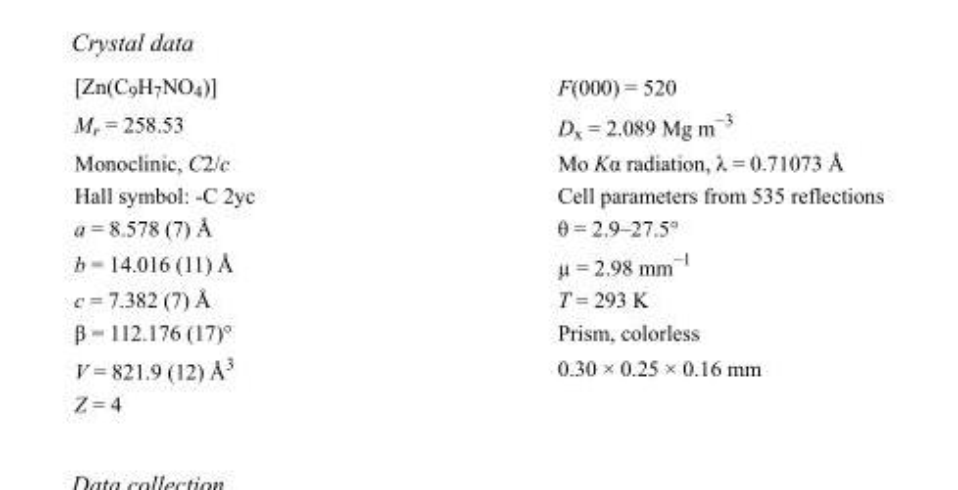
<table><tbody><tr><td>[Zn(C<sub>9</sub>H<sub>7</sub>NO<sub>4</sub>)]</td><td>F(000) = 520</td></tr><tr><td>M<sub>r</sub> = 258.53</td><td>D<sub>x</sub> = 2.089 Mg m<sup>−3</sup></td></tr><tr><td>Monoclinic, C2/c</td><td>Mo Kα radiation, λ = 0.71073 Å</td></tr><tr><td>Hall symbol: -C 2yc</td><td>Cell parameters from 535 reflections</td></tr><tr><td>a = 8.578 (7) Å</td><td>θ = 2.9–27.5°</td></tr><tr><td>b = 14.016 (11) Å</td><td>µ = 2.98 mm<sup>−1</sup></td></tr><tr><td>c = 7.382 (7) Å</td><td>T = 293 K</td></tr><tr><td>β = 112.176 (17)°</td><td>Prism, colorless</td></tr><tr><td>V = 821.9 (12) Å<sup>3</sup></td><td>0.30 × 0.25 × 0.16 mm</td></tr><tr><td>Z = 4</td><td></td></tr></tbody></table>